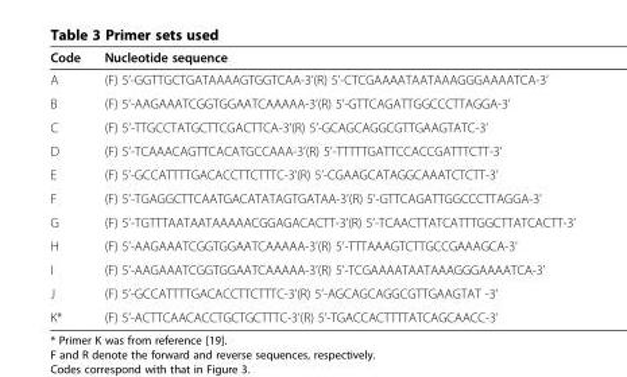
<table><thead><tr><td>Code</td><td>Nucleotide sequence</td></tr></thead><tbody><tr><td>A</td><td>(F) 5’-GGTTGCTGATAAAAGTGGTCAA-3’(R) 5’-CTCGAAAATAATAAAGGGAAAATCA-3’</td></tr><tr><td>B</td><td>(F) 5’-AAGAAATCGGTGGAATCAAAAA-3’(R) 5’-GTTCAGATTGGCCCTTAGGA-3’</td></tr><tr><td>C</td><td>(F) 5’-TTGCCTATGCTTCGACTTCA-3’(R) 5’-GCAGCAGGCGTTGAAGTATC-3’</td></tr><tr><td>D</td><td>(F) 5’-TCAAACAGTTCACATGCCAAA-3’(R) 5’-TTTTTGATTCCACCGATTTCTT-3’</td></tr><tr><td>E</td><td>(F) 5’-GCCATTTTGACACCTTCTTTC-3’(R) 5’-CGAAGCATAGGCAAATCTCTT-3’</td></tr><tr><td>F</td><td>(F) 5’-TGAGGCTTCAATGACATATAGTGATAA-3’(R) 5’-GTTCAGATTGGCCCTTAGGA-3’</td></tr><tr><td>G</td><td>(F) 5’-TGTTTAATAATAAAAACGGAGACACTT-3’(R) 5’-TCAACTTATCATTTGGCTTATCACTT-3’</td></tr><tr><td>H</td><td>(F) 5’-AAGAAATCGGTGGAATCAAAAA-3’(R) 5’-TTTAAAGTCTTGCCGAAAGCA-3’</td></tr><tr><td>I</td><td>(F) 5’-AAGAAATCGGTGGAATCAAAAA-3’(R) 5’-TCGAAAATAATAAAGGGAAAATCA-3’</td></tr><tr><td>J</td><td>(F) 5’-GCCATTTTGACACCTTCTTTC-3’(R) 5’-AGCAGCAGGCGTTGAAGTAT -3’</td></tr><tr><td>K*</td><td>(F) 5’-ACTTCAACACCTGCTGCTTTC-3’(R) 5’-TGACCACTTTTATCAGCAACC-3’</td></tr></tbody></table>